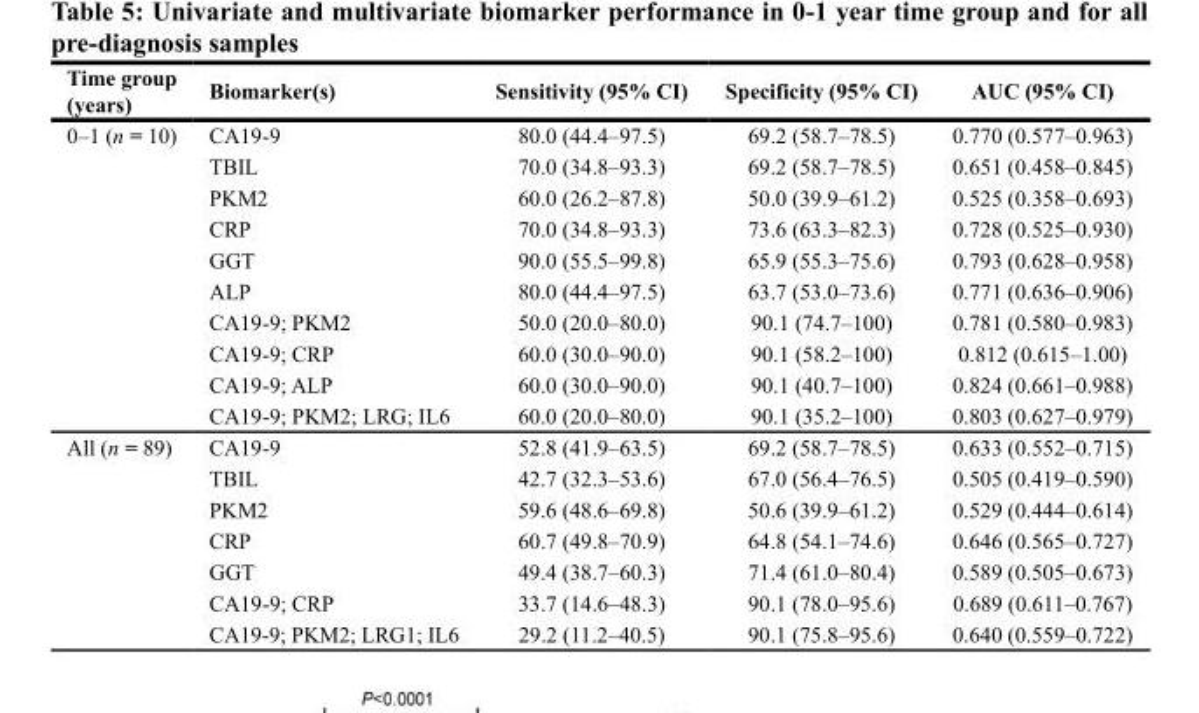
<table><thead><tr><td>Time group (years)</td><td>Biomarker(s)</td><td>Sensitivity (95% CI)</td><td>Specificity (95% CI)</td><td>AUC (95% CI)</td></tr></thead><tbody><tr><td rowspan="10">0–1 (n = 10)</td><td>CA19-9</td><td>80.0 (44.4–97.5)</td><td>69.2 (58.7–78.5)</td><td>0.770 (0.577–0.963)</td></tr><tr><td>TBIL</td><td>70.0 (34.8–93.3)</td><td>69.2 (58.7–78.5)</td><td>0.651 (0.458–0.845)</td></tr><tr><td>PKM2</td><td>60.0 (26.2–87.8)</td><td>50.0 (39.9–61.2)</td><td>0.525 (0.358–0.693)</td></tr><tr><td>CRP</td><td>70.0 (34.8–93.3)</td><td>73.6 (63.3–82.3)</td><td>0.728 (0.525–0.930)</td></tr><tr><td>GGT</td><td>90.0 (55.5–99.8)</td><td>65.9 (55.3–75.6)</td><td>0.793 (0.628–0.958)</td></tr><tr><td>ALP</td><td>80.0 (44.4–97.5)</td><td>63.7 (53.0–73.6)</td><td>0.771 (0.636–0.906)</td></tr><tr><td>CA19-9; PKM2</td><td>50.0 (20.0–80.0)</td><td>90.1 (74.7–100)</td><td>0.781 (0.580–0.983)</td></tr><tr><td>CA19-9; CRP</td><td>60.0 (30.0–90.0)</td><td>90.1 (58.2–100)</td><td>0.812 (0.615–1.00)</td></tr><tr><td>CA19-9; ALP</td><td>60.0 (30.0–90.0)</td><td>90.1 (40.7–100)</td><td>0.824 (0.661–0.988)</td></tr><tr><td>CA19-9; PKM2; LRG; IL6</td><td>60.0 (20.0–80.0)</td><td>90.1 (35.2–100)</td><td>0.803 (0.627–0.979)</td></tr><tr><td rowspan="7">All (n = 89)</td><td>CA19-9</td><td>52.8 (41.9–63.5)</td><td>69.2 (58.7–78.5)</td><td>0.633 (0.552–0.715)</td></tr><tr><td>TBIL</td><td>42.7 (32.3–53.6)</td><td>67.0 (56.4–76.5)</td><td>0.505 (0.419–0.590)</td></tr><tr><td>PKM2</td><td>59.6 (48.6–69.8)</td><td>50.6 (39.9–61.2)</td><td>0.529 (0.444–0.614)</td></tr><tr><td>CRP</td><td>60.7 (49.8–70.9)</td><td>64.8 (54.1–74.6)</td><td>0.646 (0.565–0.727)</td></tr><tr><td>GGT</td><td>49.4 (38.7–60.3)</td><td>71.4 (61.0–80.4)</td><td>0.589 (0.505–0.673)</td></tr><tr><td>CA19-9; CRP</td><td>33.7 (14.6–48.3)</td><td>90.1 (78.0–95.6)</td><td>0.689 (0.611–0.767)</td></tr><tr><td>CA19-9; PKM2; LRG1; IL6</td><td>29.2 (11.2–40.5)</td><td>90.1 (75.8–95.6)</td><td>0.640 (0.559–0.722)</td></tr></tbody></table>